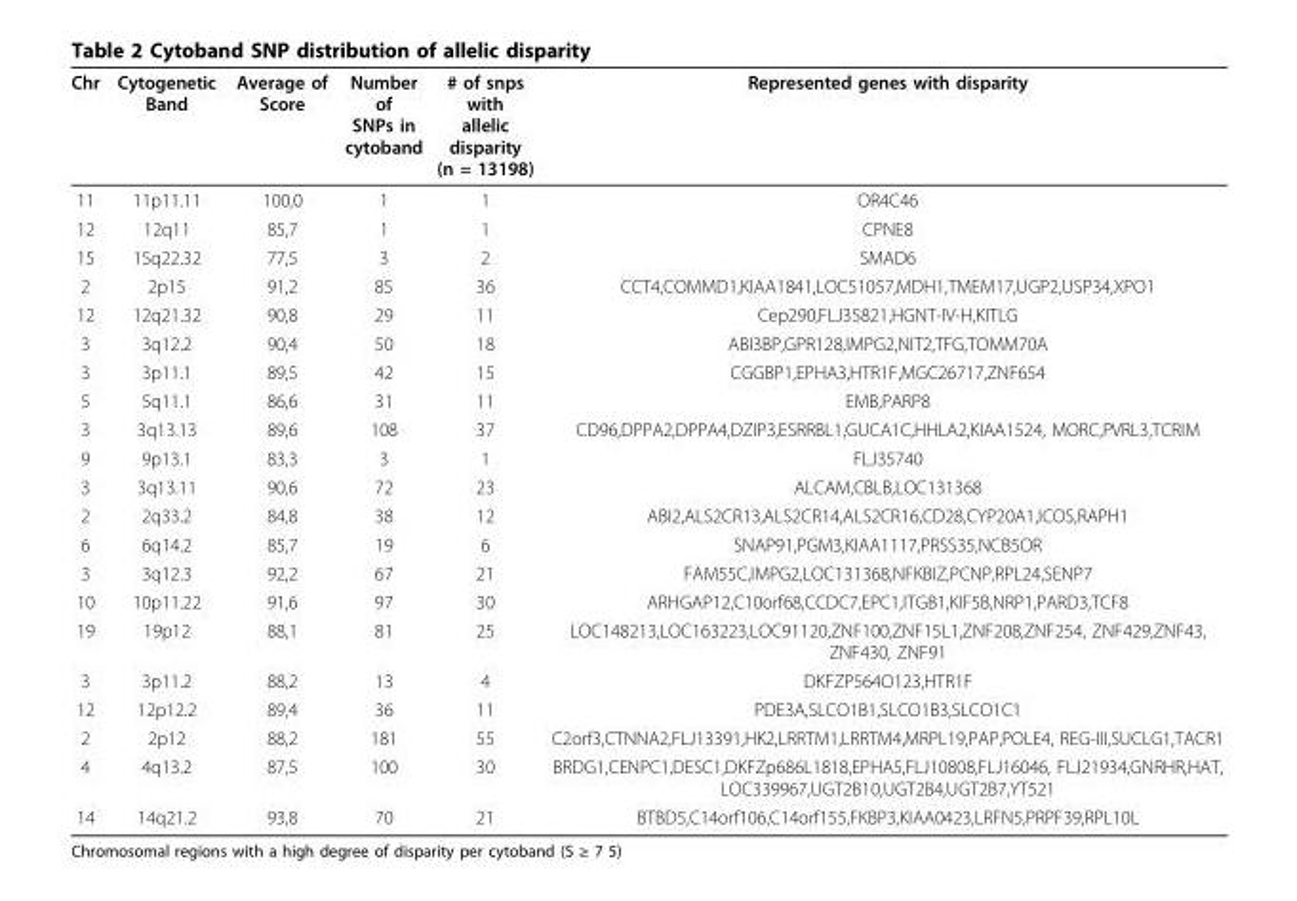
<table><thead><tr><td>Chr</td><td>Cytogenetic Band</td><td>Average of Score</td><td>Number of SNPs in cytoband</td><td># of snps with allelic disparity (n = 13198)</td><td>Represented genes with disparity</td></tr></thead><tbody><tr><td>11</td><td>11p11.11</td><td>100,0</td><td>1</td><td>1</td><td>OR4C46</td></tr><tr><td>12</td><td>12q11</td><td>85,7</td><td>1</td><td>1</td><td>CPNE8</td></tr><tr><td>15</td><td>15q22.32</td><td>77,5</td><td>3</td><td>2</td><td>SMAD6</td></tr><tr><td>2</td><td>2p15</td><td>91,2</td><td>85</td><td>36</td><td>CCT4,COMMD1,KIAA1841,LOC51057,MDH1,TMEM17,UGP2,USP34,XPO1</td></tr><tr><td>12</td><td>12q21.32</td><td>90,8</td><td>29</td><td>11</td><td>Cep290,FLJ35821,HGNT-IV-H,KITLG</td></tr><tr><td>3</td><td>3q12.2</td><td>90,4</td><td>50</td><td>18</td><td>ABI3BP,GPR128,IMPG2,NIT2,TFG,TOMM70A</td></tr><tr><td>3</td><td>3p11.1</td><td>89,5</td><td>42</td><td>15</td><td>CGGBP1,EPHA3,HTR1F,MGC26717,ZNF654</td></tr><tr><td>5</td><td>5q11.1</td><td>86,6</td><td>31</td><td>11</td><td>EMB,PARP8</td></tr><tr><td>3</td><td>3q13.13</td><td>89,6</td><td>108</td><td>37</td><td>CD96,DPPA2,DPPA4,DZIP3,ESRRBL1,GUCA1C,HHLA2,KIAA1524, MORC,PVRL3,TCRIM</td></tr><tr><td>9</td><td>9p13.1</td><td>83,3</td><td>3</td><td>1</td><td>FLJ35740</td></tr><tr><td>3</td><td>3q13.11</td><td>90,6</td><td>72</td><td>23</td><td>ALCAM,CBLB,LOC131368</td></tr><tr><td>2</td><td>2q33.2</td><td>84,8</td><td>38</td><td>12</td><td>ABI2,ALS2CR13,ALS2CR14,ALS2CR16,CD28,CYP20A1,ICOS,RAPH1</td></tr><tr><td>6</td><td>6q14.2</td><td>85,7</td><td>19</td><td>6</td><td>SNAP91,PGM3,KIAA1117,PRSS35,NCB5OR</td></tr><tr><td>3</td><td>3q12.3</td><td>92,2</td><td>67</td><td>21</td><td>FAM55C,IMPG2,LOC131368,NFKBIZ,PCNP,RPL24,SENP7</td></tr><tr><td>10</td><td>10p11.22</td><td>91,6</td><td>97</td><td>30</td><td>ARHGAP12,C10orf68,CCDC7,EPC1,ITGB1,KIF5B,NRP1,PARD3,TCF8</td></tr><tr><td>19</td><td>19p12</td><td>88,1</td><td>81</td><td>25</td><td>LOC148213,LOC163223,LOC91120,ZNF100,ZNF15L1,ZNF208,ZNF254, ZNF429,ZNF43, ZNF430, ZNF91</td></tr><tr><td>3</td><td>3p11.2</td><td>88,2</td><td>13</td><td>4</td><td>DKFZP564O123,HTR1F</td></tr><tr><td>12</td><td>12p12.2</td><td>89,4</td><td>36</td><td>11</td><td>PDE3A,SLCO1B1,SLCO1B3,SLCO1C1</td></tr><tr><td>2</td><td>2p12</td><td>88,2</td><td>181</td><td>55</td><td>C2orf3,CTNNA2,FLJ13391,HK2,LRRTM1,LRRTM4,MRPL19,PAP,POLE4, REG-III,SUCLG1,TACR1</td></tr><tr><td>4</td><td>4q13.2</td><td>87,5</td><td>100</td><td>30</td><td>BRDG1,CENPC1,DESC1,DKFZp686L1818,EPHA5,FLJ10808,FLJ16046, FLJ21934,GNRHR,HAT, LOC339967,UGT2B10,UGT2B4,UGT2B7,YT521</td></tr><tr><td>14</td><td>14q21.2</td><td>93,8</td><td>70</td><td>21</td><td>BTBD5,C14orf106,C14orf155,FKBP3,KIAA0423,LRFN5,PRPF39,RPL10L</td></tr></tbody></table>